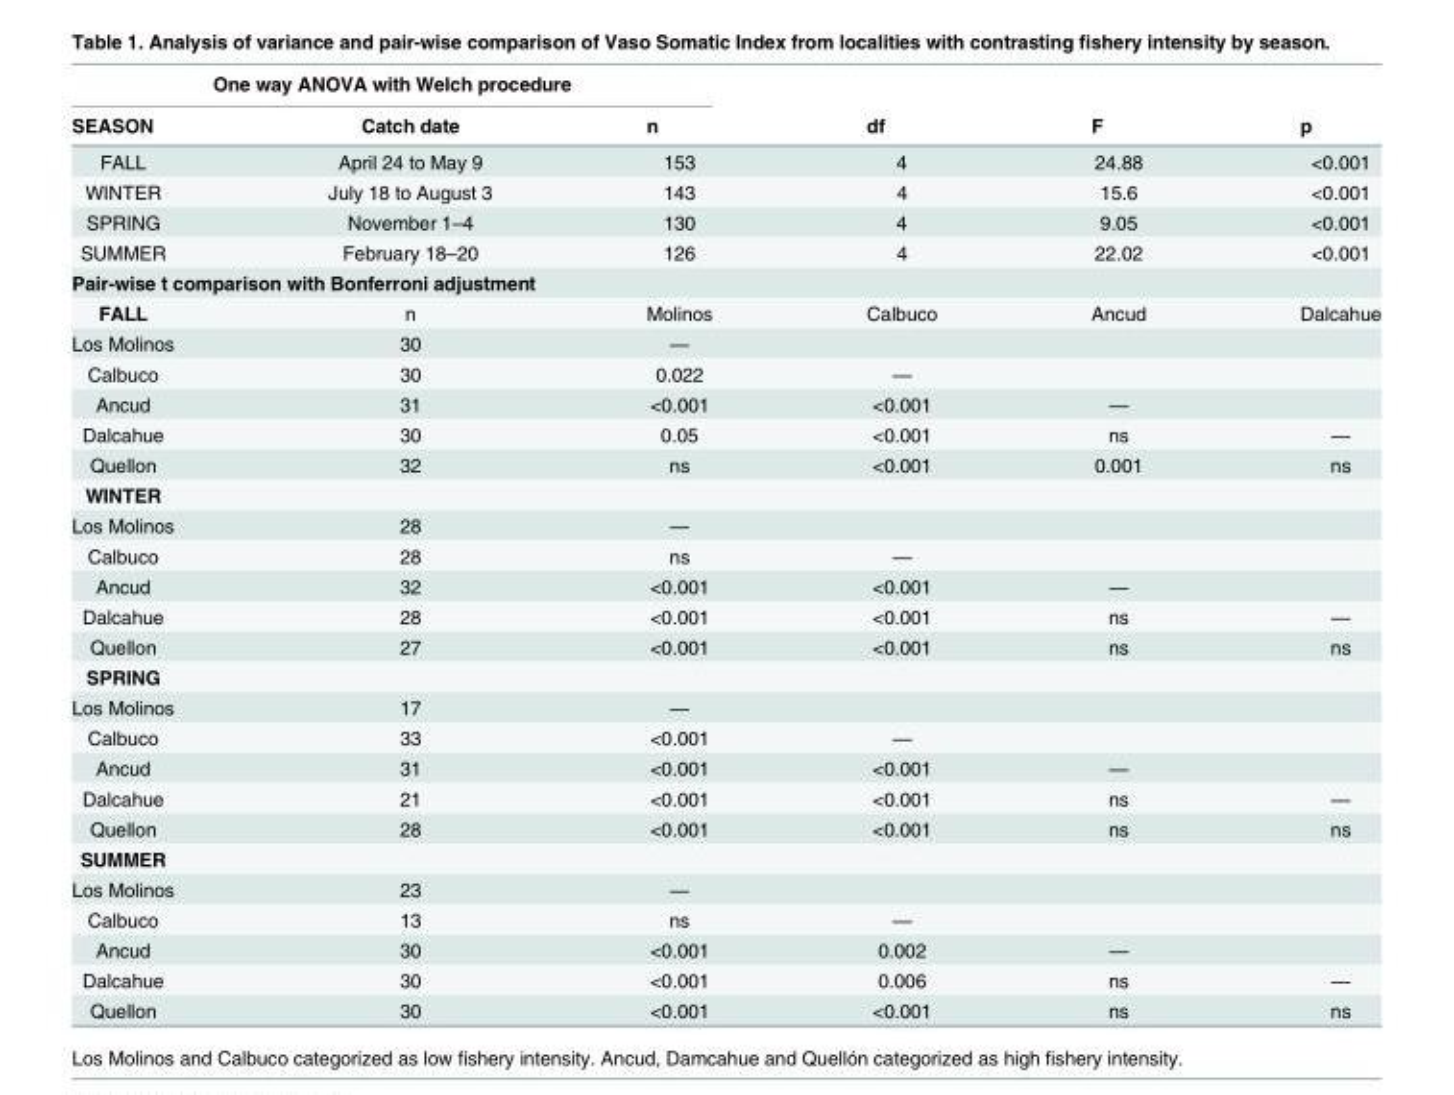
<table><thead><tr><td colspan="6">One way ANOVA with Welch procedure</td></tr><tr><td>SEASON</td><td>Catch date</td><td>n</td><td>df</td><td>F</td><td>p</td></tr></thead><tbody><tr><td>FALL</td><td>April 24 to May 9</td><td>153</td><td>4</td><td>24.88</td><td>&lt;0.001</td></tr><tr><td>WINTER</td><td>July 18 to August 3</td><td>143</td><td>4</td><td>15.6</td><td>&lt;0.001</td></tr><tr><td>SPRING</td><td>November 1–4</td><td>130</td><td>4</td><td>9.05</td><td>&lt;0.001</td></tr><tr><td>SUMMER</td><td>February 18–20</td><td>126</td><td>4</td><td>22.02</td><td>&lt;0.001</td></tr><tr><td colspan="6">Pair-wise t comparison with Bonferroni adjustment</td></tr><tr><td>FALL</td><td>n</td><td>Molinos</td><td>Calbuco</td><td>Ancud</td><td>Dalcahue</td></tr><tr><td>Los Molinos</td><td>30</td><td>—</td><td></td><td></td><td></td></tr><tr><td>Calbuco</td><td>30</td><td>0.022</td><td>—</td><td></td><td></td></tr><tr><td>Ancud</td><td>31</td><td>&lt;0.001</td><td>&lt;0.001</td><td>—</td><td></td></tr><tr><td>Dalcahue</td><td>30</td><td>0.05</td><td>&lt;0.001</td><td>ns</td><td>—</td></tr><tr><td>Quellon</td><td>32</td><td>ns</td><td>&lt;0.001</td><td>0.001</td><td>ns</td></tr><tr><td colspan="6">WINTER</td></tr><tr><td>Los Molinos</td><td>28</td><td>—</td><td></td><td></td><td></td></tr><tr><td>Calbuco</td><td>28</td><td>ns</td><td>—</td><td></td><td></td></tr><tr><td>Ancud</td><td>32</td><td>&lt;0.001</td><td>&lt;0.001</td><td>—</td><td></td></tr><tr><td>Dalcahue</td><td>28</td><td>&lt;0.001</td><td>&lt;0.001</td><td>ns</td><td>—</td></tr><tr><td>Quellon</td><td>27</td><td>&lt;0.001</td><td>&lt;0.001</td><td>ns</td><td>ns</td></tr><tr><td colspan="6">SPRING</td></tr><tr><td>Los Molinos</td><td>17</td><td>—</td><td></td><td></td><td></td></tr><tr><td>Calbuco</td><td>33</td><td>&lt;0.001</td><td>—</td><td></td><td></td></tr><tr><td>Ancud</td><td>31</td><td>&lt;0.001</td><td>&lt;0.001</td><td>—</td><td></td></tr><tr><td>Dalcahue</td><td>21</td><td>&lt;0.001</td><td>&lt;0.001</td><td>ns</td><td>—</td></tr><tr><td>Quellon</td><td>28</td><td>&lt;0.001</td><td>&lt;0.001</td><td>ns</td><td>ns</td></tr><tr><td colspan="6">SUMMER</td></tr><tr><td>Los Molinos</td><td>23</td><td>—</td><td></td><td></td><td></td></tr><tr><td>Calbuco</td><td>13</td><td>ns</td><td>—</td><td></td><td></td></tr><tr><td>Ancud</td><td>30</td><td>&lt;0.001</td><td>0.002</td><td>—</td><td></td></tr><tr><td>Dalcahue</td><td>30</td><td>&lt;0.001</td><td>0.006</td><td>ns</td><td>—</td></tr><tr><td>Quellon</td><td>30</td><td>&lt;0.001</td><td>&lt;0.001</td><td>ns</td><td>ns</td></tr></tbody></table>